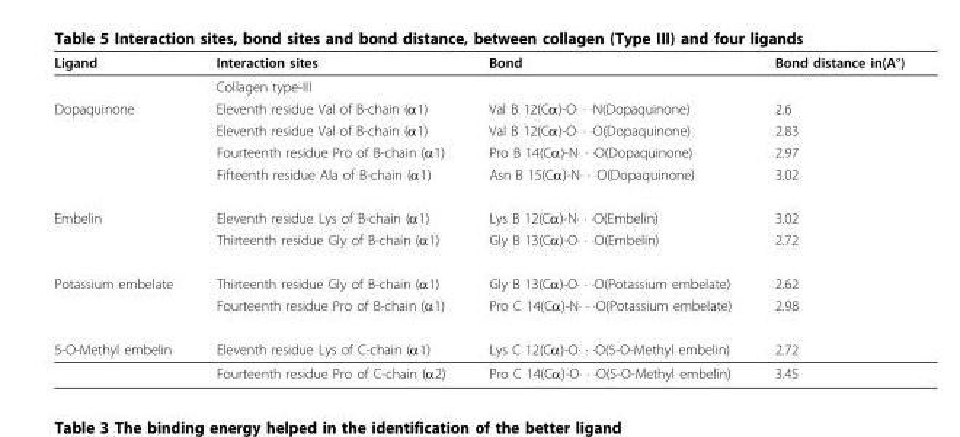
<table><thead><tr><td>Ligand</td><td>Interaction sites</td><td>Bond</td><td>Bond distance in(A°)</td></tr></thead><tbody><tr><td></td><td>Collagen type-III</td><td></td><td></td></tr><tr><td rowspan="4">Dopaquinone</td><td>Eleventh residue Val of B-chain (α1)</td><td>Val B 12(Cα)-O· · ·N(Dopaquinone)</td><td>2.6</td></tr><tr><td>Eleventh residue Val of B-chain (α1)</td><td>Val B 12(Cα)-O· · ·O(Dopaquinone)</td><td>2.83</td></tr><tr><td>Fourteenth residue Pro of B-chain (α1)</td><td>Pro B 14(Cα)-N· · ·O(Dopaquinone)</td><td>2.97</td></tr><tr><td>Fifteenth residue Ala of B-chain (α1)</td><td>Asn B 15(Cα)-N· · ·O(Dopaquinone)</td><td>3.02</td></tr><tr><td rowspan="2">Embelin</td><td>Eleventh residue Lys of B-chain (α1)</td><td>Lys B 12(Cα)-N· · ·O(Embelin)</td><td>3.02</td></tr><tr><td>Thirteenth residue Gly of B-chain (α1)</td><td>Gly B 13(Cα)-O· · ·O(Embelin)</td><td>2.72</td></tr><tr><td rowspan="2">Potassium embelate</td><td>Thirteenth residue Gly of B-chain (α1)</td><td>Gly B 13(Cα)-O· · ·O(Potassium embelate)</td><td>2.62</td></tr><tr><td>Fourteenth residue Pro of B-chain (α1)</td><td>Pro C 14(Cα)-N· · ·O(Potassium embelate)</td><td>2.98</td></tr><tr><td rowspan="2">5-O-Methyl embelin</td><td>Eleventh residue Lys of C-chain (α1)</td><td>Lys C 12(Cα)-O· · ·O(5-O-Methyl embelin)</td><td>2.72</td></tr><tr><td>Fourteenth residue Pro of C-chain (α2)</td><td>Pro C 14(Cα)-O· · ·O(5-O-Methyl embelin)</td><td>3.45</td></tr></tbody></table>